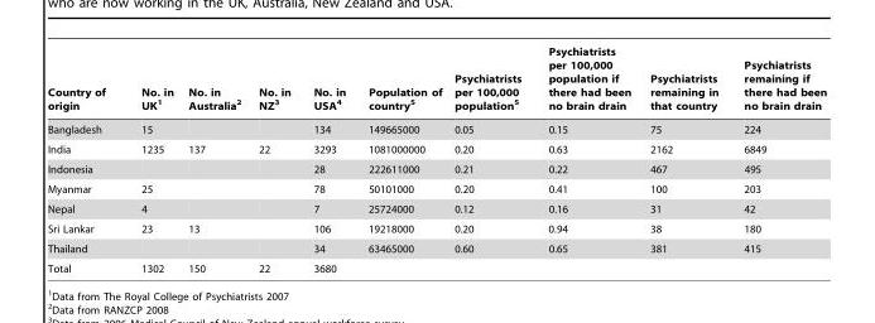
<table><thead><tr><td>Country of origin</td><td>No. in UK<sup>1</sup></td><td>No. in Australia<sup>2</sup></td><td>No. in NZ<sup>3</sup></td><td>No. in USA<sup>4</sup></td><td>Population of country<sup>5</sup></td><td>Psychiatrists per 100,000 population<sup>5</sup></td><td>Psychiatrists per 100,000 population if there had been no brain drain</td><td>Psychiatrists remaining in that country</td><td>Psychiatrists remaining if there had been no brain drain</td></tr></thead><tbody><tr><td>Bangladesh</td><td>15</td><td></td><td></td><td>134</td><td>149665000</td><td>0.05</td><td>0.15</td><td>75</td><td>224</td></tr><tr><td>India</td><td>1235</td><td>137</td><td>22</td><td>3293</td><td>1081000000</td><td>0.20</td><td>0.63</td><td>2162</td><td>6849</td></tr><tr><td>Indonesia</td><td></td><td></td><td></td><td>28</td><td>222611000</td><td>0.21</td><td>0.22</td><td>467</td><td>495</td></tr><tr><td>Myanmar</td><td>25</td><td></td><td></td><td>78</td><td>50101000</td><td>0.20</td><td>0.41</td><td>100</td><td>203</td></tr><tr><td>Nepal</td><td>4</td><td></td><td></td><td>7</td><td>25724000</td><td>0.12</td><td>0.16</td><td>31</td><td>42</td></tr><tr><td>Sri Lankar</td><td>23</td><td>13</td><td></td><td>106</td><td>19218000</td><td>0.20</td><td>0.94</td><td>38</td><td>180</td></tr><tr><td>Thailand</td><td></td><td></td><td></td><td>34</td><td>63465000</td><td>0.60</td><td>0.65</td><td>381</td><td>415</td></tr><tr><td>Total</td><td>1302</td><td>150</td><td>22</td><td>3680</td><td></td><td></td><td></td><td></td><td></td></tr></tbody></table>